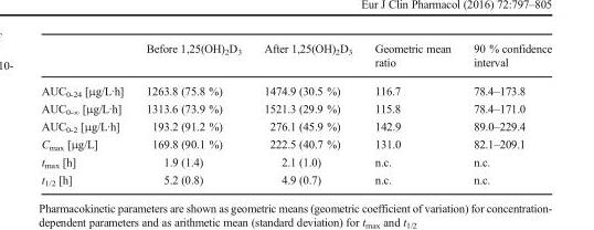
<table><thead><tr><td></td><td>Before 1,25(OH)<sub>2</sub>D<sub>3</sub></td><td>After 1,25(OH)<sub>2</sub>D<sub>3</sub></td><td>Geometric mean ratio</td><td>90 % confidence interval</td></tr></thead><tbody><tr><td>AUC<sub>0-24</sub> [μg/L·h]</td><td>1263.8 (75.8 %)</td><td>1474.9 (30.5 %)</td><td>116.7</td><td>78.4–173.8</td></tr><tr><td>AUC<sub>0-∞</sub> [μg/L·h]</td><td>1313.6 (73.9 %)</td><td>1521.3 (29.9 %)</td><td>115.8</td><td>78.4–171.0</td></tr><tr><td>AUC<sub>0-2</sub> [μg/L·h]</td><td>193.2 (91.2 %)</td><td>276.1 (45.9 %)</td><td>142.9</td><td>89.0–229.4</td></tr><tr><td>C<sub>max</sub> [μg/L]</td><td>169.8 (90.1 %)</td><td>222.5 (40.7 %)</td><td>131.0</td><td>82.1–209.1</td></tr><tr><td>t<sub>max</sub> [h]</td><td>1.9 (1.4)</td><td>2.1 (1.0)</td><td>n.c.</td><td>n.c.</td></tr><tr><td>t<sub>1/2</sub> [h]</td><td>5.2 (0.8)</td><td>4.9 (0.7)</td><td>n.c.</td><td>n.c.</td></tr></tbody></table>